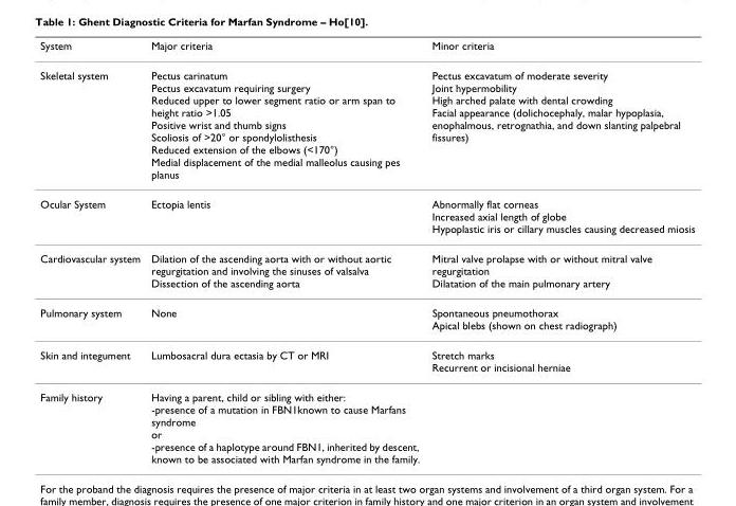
<table><thead><tr><td>System</td><td>Major criteria</td><td>Minor criteria</td></tr></thead><tbody><tr><td>Skeletal system</td><td>Pectus carinatum Pectus excavatum requiring surgery Reduced upper to lower segment ratio or arm span to height ratio &gt;1.05 Positive wrist and thumb signs Scoliosis of &gt;20° or spondylolisthesis Reduced extension of the elbows (&lt;170°) Medial displacement of the medial malleolus causing pes planus</td><td>Pectus excavatum of moderate severity Joint hypermobility High arched palate with dental crowding Facial appearance (dolichocephaly, malar hypoplasia, enophalmous, retrognathia, and down slanting palpebral fissures)</td></tr><tr><td>Ocular System</td><td>Ectopia lentis</td><td>Abnormally flat corneas Increased axial length of globe Hypoplastic iris or cillary muscles causing decreased miosis</td></tr><tr><td>Cardiovascular system</td><td>Dilation of the ascending aorta with or without aortic regurgitation and involving the sinuses of valsalva Dissection of the ascending aorta</td><td>Mitral valve prolapse with or without mitral valve regurgitation Dilatation of the main pulmonary artery</td></tr><tr><td>Pulmonary system</td><td>None</td><td>Spontaneous pneumothorax Apical blebs (shown on chest radiograph)</td></tr><tr><td>Skin and integument</td><td>Lumbosacral dura ectasia by CT or MRI</td><td>Stretch marks Recurrent or incisional herniae</td></tr><tr><td>Family history</td><td>Having a parent, child or sibling with either: -presence of a mutation in FBN1known to cause Marfans syndrome or -presence of a haplotype around FBN1, inherited by descent, known to be associated with Marfan syndrome in the family.</td><td></td></tr></tbody></table>